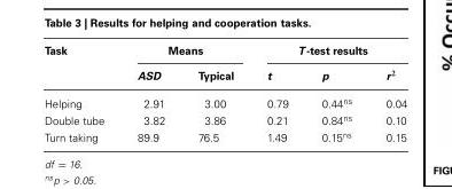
<table><thead><tr><td rowspan="2">Task</td><td colspan="2">Means</td><td colspan="3">T-test results</td></tr><tr><td>ASD</td><td>Typical</td><td>t</td><td>p</td><td>r<sup>2</sup></td></tr></thead><tbody><tr><td>Helping</td><td>2.91</td><td>3.00</td><td>0.79</td><td>0.44<sup>ns</sup></td><td>0.04</td></tr><tr><td>Double tube</td><td>3.82</td><td>3.86</td><td>0.21</td><td>0.84<sup>ns</sup></td><td>0.10</td></tr><tr><td>Turn taking</td><td>89.9</td><td>76.5</td><td>1.49</td><td>0.15<sup>ns</sup></td><td>0.15</td></tr></tbody></table>